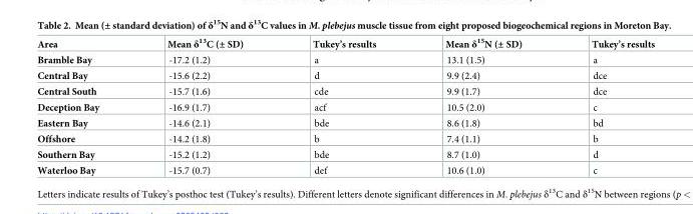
<table><thead><tr><td>Area</td><td>Mean δ<sup>13</sup>C (± SD)</td><td>Tukey’s results</td><td>Mean δ<sup>15</sup>N (± SD)</td><td>Tukey’s results</td></tr></thead><tbody><tr><td>Bramble Bay</td><td>-17.2 (1.2)</td><td>a</td><td>13.1 (1.5)</td><td>a</td></tr><tr><td>Central Bay</td><td>-15.6 (2.2)</td><td>d</td><td>9.9 (2.4)</td><td>dce</td></tr><tr><td>Central South</td><td>-15.7 (1.6)</td><td>cde</td><td>9.9 (1.7)</td><td>dce</td></tr><tr><td>Deception Bay</td><td>-16.9 (1.7)</td><td>acf</td><td>10.5 (2.0)</td><td>c</td></tr><tr><td>Eastern Bay</td><td>-14.6 (2.1)</td><td>bde</td><td>8.6 (1.8)</td><td>bd</td></tr><tr><td>Offshore</td><td>-14.2 (1.8)</td><td>b</td><td>7.4 (1.1)</td><td>b</td></tr><tr><td>Southern Bay</td><td>-15.2 (1.2)</td><td>bde</td><td>8.7 (1.0)</td><td>d</td></tr><tr><td>Waterloo Bay</td><td>-15.7 (0.7)</td><td>def</td><td>10.6 (1.0)</td><td>c</td></tr></tbody></table>